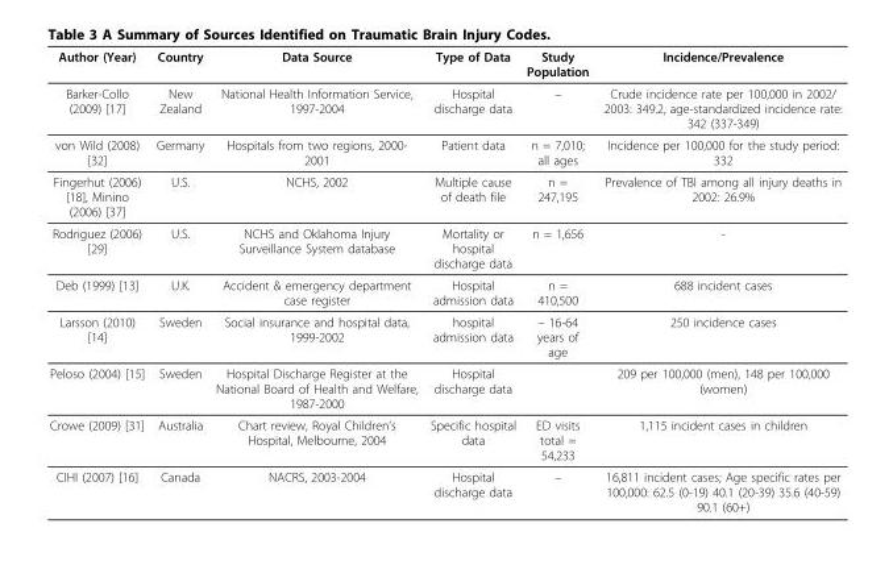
<table><thead><tr><td>Author (Year)</td><td>Country</td><td>Data Source</td><td>Type of Data</td><td>Study Population</td><td>Incidence/Prevalence</td></tr></thead><tbody><tr><td>Barker-Collo (2009) [17]</td><td>New Zealand</td><td>National Health Information Service, 1997-2004</td><td>Hospital discharge data</td><td>–</td><td>Crude incidence rate per 100,000 in 2002/ 2003: 349.2, age-standardized incidence rate: 342 (337-349)</td></tr><tr><td>von Wild (2008) [32]</td><td>Germany</td><td>Hospitals from two regions, 2000- 2001</td><td>Patient data</td><td>n = 7,010; all ages</td><td>Incidence per 100,000 for the study period: 332</td></tr><tr><td>Fingerhut (2006) [18], Minino (2006) [37]</td><td>U.S.</td><td>NCHS, 2002</td><td>Multiple cause of death file</td><td>n = 247,195</td><td>Prevalence of TBI among all injury deaths in 2002: 26.9%</td></tr><tr><td>Rodriguez (2006) [29]</td><td>U.S.</td><td>NCHS and Oklahoma Injury Surveillance System database</td><td>Mortality or hospital discharge data</td><td>n = 1,656</td><td>-</td></tr><tr><td>Deb (1999) [13]</td><td>U.K.</td><td>Accident &amp; emergency department case register</td><td>Hospital admission data</td><td>n = 410,500</td><td>688 incident cases</td></tr><tr><td>Larsson (2010) [14]</td><td>Sweden</td><td>Social insurance and hospital data, 1999-2002</td><td>hospital admission data</td><td>– 16-64 years of age</td><td>250 incidence cases</td></tr><tr><td>Peloso (2004) [15]</td><td>Sweden</td><td>Hospital Discharge Register at the National Board of Health and Welfare, 1987-2000</td><td>Hospital discharge data</td><td></td><td>209 per 100,000 (men), 148 per 100,000 (women)</td></tr><tr><td>Crowe (2009) [31]</td><td>Australia</td><td>Chart review, Royal Children’s Hospital, Melbourne, 2004</td><td>Specific hospital data</td><td>ED visits total = 54,233</td><td>1,115 incident cases in children</td></tr><tr><td>CIHI (2007) [16]</td><td>Canada</td><td>NACRS, 2003-2004</td><td>Hospital discharge data</td><td>–</td><td>16,811 incident cases; Age specific rates per 100,000: 62.5 (0-19) 40.1 (20-39) 35.6 (40-59) 90.1 (60+)</td></tr></tbody></table>